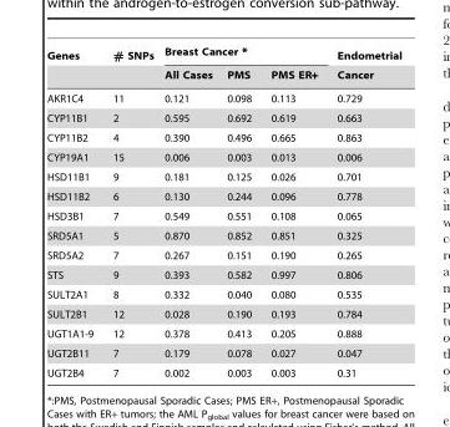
<table><thead><tr><td rowspan="2">Genes</td><td rowspan="2"># SNPs</td><td colspan="3">Breast Cancer **</td><td rowspan="2">Endometrial Cancer</td></tr><tr><td>All Cases</td><td>PMS</td><td>PMS ER+</td></tr></thead><tbody><tr><td>AKR1C4</td><td>11</td><td>0.121</td><td>0.098</td><td>0.113</td><td>0.729</td></tr><tr><td>CYP11B1</td><td>2</td><td>0.595</td><td>0.692</td><td>0.619</td><td>0.663</td></tr><tr><td>CYP11B2</td><td>4</td><td>0.390</td><td>0.496</td><td>0.665</td><td>0.863</td></tr><tr><td>CYP19A1</td><td>15</td><td>0.006</td><td>0.003</td><td>0.013</td><td>0.006</td></tr><tr><td>HSD11B1</td><td>9</td><td>0.181</td><td>0.125</td><td>0.026</td><td>0.701</td></tr><tr><td>HSD11B2</td><td>6</td><td>0.130</td><td>0.244</td><td>0.096</td><td>0.778</td></tr><tr><td>HSD3B1</td><td>7</td><td>0.549</td><td>0.551</td><td>0.108</td><td>0.065</td></tr><tr><td>SRD5A1</td><td>5</td><td>0.870</td><td>0.852</td><td>0.851</td><td>0.325</td></tr><tr><td>SRD5A2</td><td>7</td><td>0.267</td><td>0.151</td><td>0.190</td><td>0.265</td></tr><tr><td>STS</td><td>9</td><td>0.393</td><td>0.582</td><td>0.997</td><td>0.806</td></tr><tr><td>SULT2A1</td><td>8</td><td>0.332</td><td>0.040</td><td>0.080</td><td>0.535</td></tr><tr><td>SULT2B1</td><td>12</td><td>0.028</td><td>0.190</td><td>0.193</td><td>0.784</td></tr><tr><td>UGT1A1-9</td><td>12</td><td>0.378</td><td>0.413</td><td>0.205</td><td>0.888</td></tr><tr><td>UGT2B11</td><td>7</td><td>0.179</td><td>0.078</td><td>0.027</td><td>0.047</td></tr><tr><td>UGT2B4</td><td>7</td><td>0.002</td><td>0.003</td><td>0.003</td><td>0.31</td></tr></tbody></table>